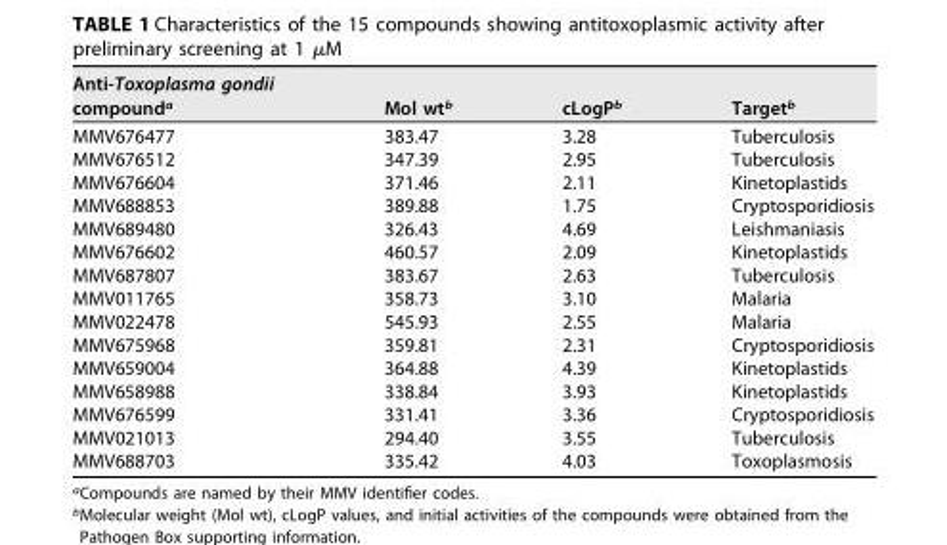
<table><thead><tr><td>Anti-Toxoplasma gondii compound<sup>a</sup></td><td>Mol wt<sup>b</sup></td><td>cLogP<sup>b</sup></td><td>Target<sup>b</sup></td></tr></thead><tbody><tr><td>MMV676477</td><td>383.47</td><td>3.28</td><td>Tuberculosis</td></tr><tr><td>MMV676512</td><td>347.39</td><td>2.95</td><td>Tuberculosis</td></tr><tr><td>MMV676604</td><td>371.46</td><td>2.11</td><td>Kinetoplastids</td></tr><tr><td>MMV688853</td><td>389.88</td><td>1.75</td><td>Cryptosporidiosis</td></tr><tr><td>MMV689480</td><td>326.43</td><td>4.69</td><td>Leishmaniasis</td></tr><tr><td>MMV676602</td><td>460.57</td><td>2.09</td><td>Kinetoplastids</td></tr><tr><td>MMV687807</td><td>383.67</td><td>2.63</td><td>Tuberculosis</td></tr><tr><td>MMV011765</td><td>358.73</td><td>3.10</td><td>Malaria</td></tr><tr><td>MMV022478</td><td>545.93</td><td>2.55</td><td>Malaria</td></tr><tr><td>MMV675968</td><td>359.81</td><td>2.31</td><td>Cryptosporidiosis</td></tr><tr><td>MMV659004</td><td>364.88</td><td>4.39</td><td>Kinetoplastids</td></tr><tr><td>MMV658988</td><td>338.84</td><td>3.93</td><td>Kinetoplastids</td></tr><tr><td>MMV676599</td><td>331.41</td><td>3.36</td><td>Cryptosporidiosis</td></tr><tr><td>MMV021013</td><td>294.40</td><td>3.55</td><td>Tuberculosis</td></tr><tr><td>MMV688703</td><td>335.42</td><td>4.03</td><td>Toxoplasmosis</td></tr></tbody></table>